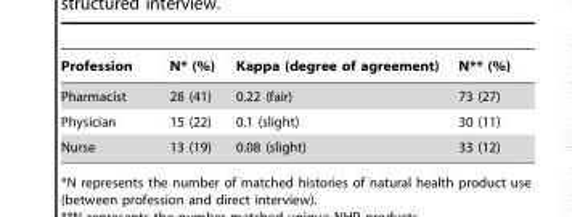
<table><thead><tr><td>Profession</td><td>N* (%)</td><td>Kappa (degree of agreement)</td><td>N** (%)</td></tr></thead><tbody><tr><td>Pharmacist</td><td>28 (41)</td><td>0.22 (fair)</td><td>73 (27)</td></tr><tr><td>Physician</td><td>15 (22)</td><td>0.1 (slight)</td><td>30 (11)</td></tr><tr><td>Nurse</td><td>13 (19)</td><td>0.08 (slight)</td><td>33 (12)</td></tr></tbody></table>